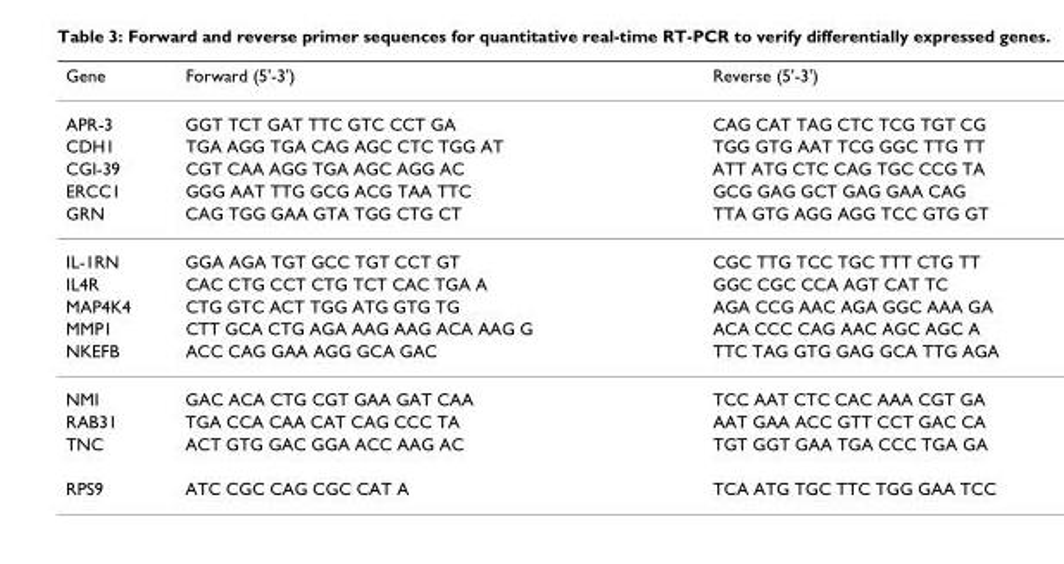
<table><thead><tr><td>Gene</td><td>Forward (5&#x27;-3&#x27;)</td><td>Reverse (5&#x27;-3&#x27;)</td></tr></thead><tbody><tr><td>APR-3</td><td>GGT TCT GAT TTC GTC CCT GA</td><td>CAG CAT TAG CTC TCG TGT CG</td></tr><tr><td>CDH1</td><td>TGA AGG TGA CAG AGC CTC TGG AT</td><td>TGG GTG AAT TCG GGC TTG TT</td></tr><tr><td>CGI-39</td><td>CGT CAA AGG TGA AGC AGG AC</td><td>ATT ATG CTC CAG TGC CCG TA</td></tr><tr><td>ERCC1</td><td>GGG AAT TTG GCG ACG TAA TTC</td><td>GCG GAG GCT GAG GAA CAG</td></tr><tr><td>GRN</td><td>CAG TGG GAA GTA TGG CTG CT</td><td>TTA GTG AGG AGG TCC GTG GT</td></tr><tr><td>IL-1RN</td><td>GGA AGA TGT GCC TGT CCT GT</td><td>CGC TTG TCC TGC TTT CTG TT</td></tr><tr><td>IL4R</td><td>CAC CTG CCT CTG TCT CAC TGA A</td><td>GGC CGC CCA AGT CAT TC</td></tr><tr><td>MAP4K4</td><td>CTG GTC ACT TGG ATG GTG TG</td><td>AGA CCG AAC AGA GGC AAA GA</td></tr><tr><td>MMP1</td><td>CTT GCA CTG AGA AAG AAG ACA AAG G</td><td>ACA CCC CAG AAC AGC AGC A</td></tr><tr><td>NKEFB</td><td>ACC CAG GAA AGG GCA GAC</td><td>TTC TAG GTG GAG GCA TTG AGA</td></tr><tr><td>NMI</td><td>GAC ACA CTG CGT GAA GAT CAA</td><td>TCC AAT CTC CAC AAA CGT GA</td></tr><tr><td>RAB31</td><td>TGA CCA CAA CAT CAG CCC TA</td><td>AAT GAA ACC GTT CCT GAC CA</td></tr><tr><td>TNC</td><td>ACT GTG GAC GGA ACC AAG AC</td><td>TGT GGT GAA TGA CCC TGA GA</td></tr><tr><td>RPS9</td><td>ATC CGC CAG CGC CAT A</td><td>TCA ATG TGC TTC TGG GAA TCC</td></tr></tbody></table>